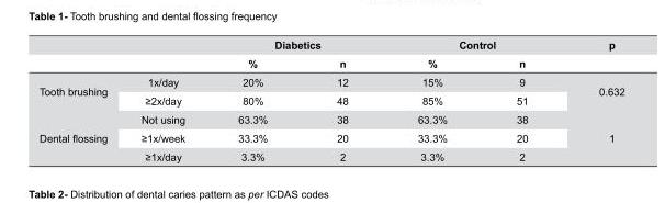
<table><thead><tr><td rowspan="2"></td><td rowspan="2"></td><td colspan="2">Diabetics</td><td colspan="2">Control</td><td rowspan="2">p</td></tr><tr><td>%</td><td>n</td><td>%</td><td>n</td></tr></thead><tbody><tr><td rowspan="2">Tooth brushing</td><td>1x/day</td><td>20%</td><td>12</td><td>15%</td><td>9</td><td rowspan="2">0.632</td></tr><tr><td>≥2x/day</td><td>80%</td><td>48</td><td>85%</td><td>51</td></tr><tr><td rowspan="3">Dental flossing</td><td>Not using</td><td>63.3%</td><td>38</td><td>63.3%</td><td>38</td><td rowspan="3">1</td></tr><tr><td>≥1x/week</td><td>33.3%</td><td>20</td><td>33.3%</td><td>20</td></tr><tr><td>≥1x/day</td><td>3.3%</td><td>2</td><td>3.3%</td><td>2</td></tr></tbody></table>